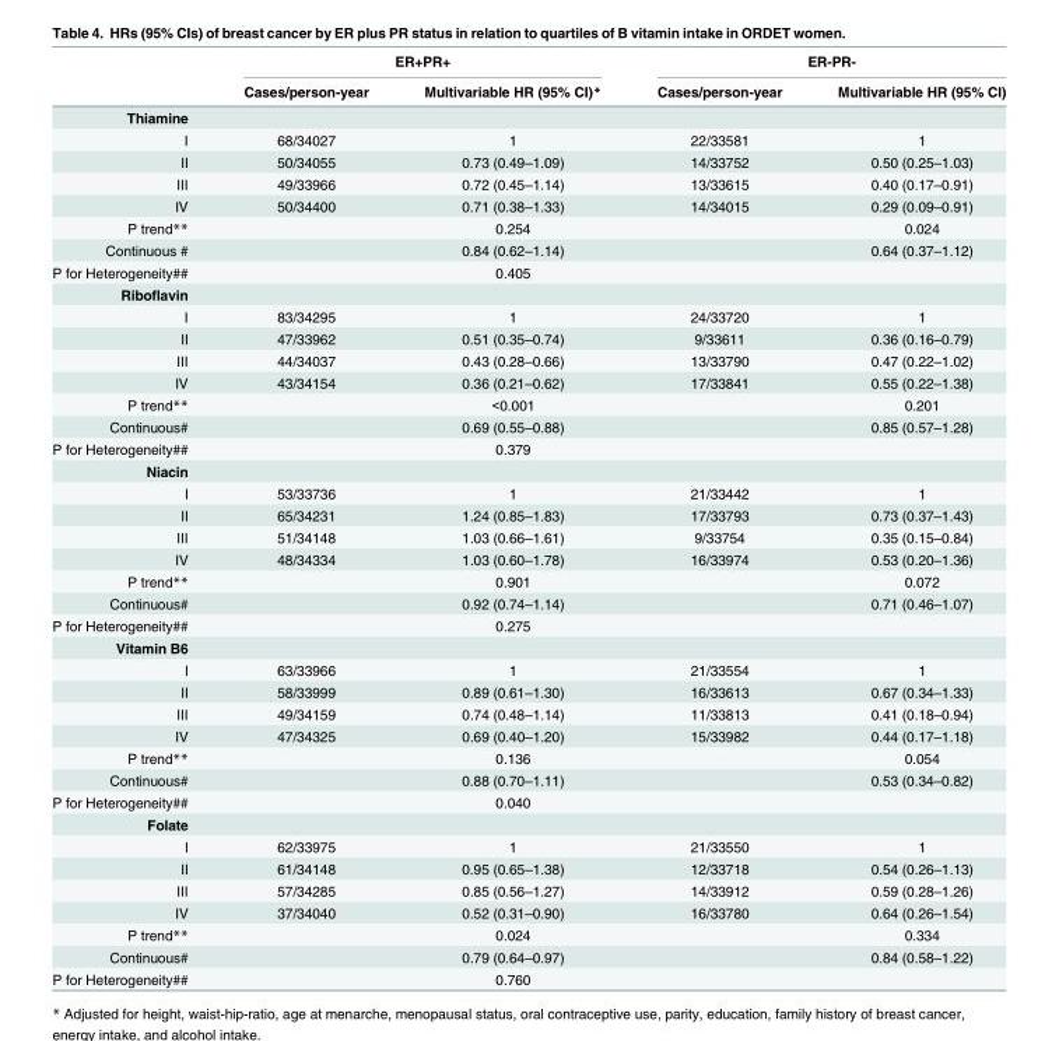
<table><thead><tr><td rowspan="2"></td><td colspan="2">ER+PR+</td><td colspan="2">ER-PR-</td></tr><tr><td>Cases/person-year</td><td>Multivariable HR (95% CI)*</td><td>Cases/person-year</td><td>Multivariable HR (95% CI)</td></tr></thead><tbody><tr><td colspan="5">Thiamine</td></tr><tr><td>I</td><td>68/34027</td><td>1</td><td>22/33581</td><td>1</td></tr><tr><td>II</td><td>50/34055</td><td>0.73 (0.49–1.09)</td><td>14/33752</td><td>0.50 (0.25–1.03)</td></tr><tr><td>III</td><td>49/33966</td><td>0.72 (0.45–1.14)</td><td>13/33615</td><td>0.40 (0.17–0.91)</td></tr><tr><td>IV</td><td>50/34400</td><td>0.71 (0.38–1.33)</td><td>14/34015</td><td>0.29 (0.09–0.91)</td></tr><tr><td>P trend**</td><td></td><td>0.254</td><td></td><td>0.024</td></tr><tr><td>Continuous #</td><td></td><td>0.84 (0.62–1.14)</td><td></td><td>0.64 (0.37–1.12)</td></tr><tr><td>P for Heterogeneity##</td><td></td><td>0.405</td><td></td><td></td></tr><tr><td colspan="5">Riboflavin</td></tr><tr><td>I</td><td>83/34295</td><td>1</td><td>24/33720</td><td>1</td></tr><tr><td>II</td><td>47/33962</td><td>0.51 (0.35–0.74)</td><td>9/33611</td><td>0.36 (0.16–0.79)</td></tr><tr><td>III</td><td>44/34037</td><td>0.43 (0.28–0.66)</td><td>13/33790</td><td>0.47 (0.22–1.02)</td></tr><tr><td>IV</td><td>43/34154</td><td>0.36 (0.21–0.62)</td><td>17/33841</td><td>0.55 (0.22–1.38)</td></tr><tr><td>P trend**</td><td></td><td>&lt;0.001</td><td></td><td>0.201</td></tr><tr><td>Continuous#</td><td></td><td>0.69 (0.55–0.88)</td><td></td><td>0.85 (0.57–1.28)</td></tr><tr><td>P for Heterogeneity##</td><td></td><td>0.379</td><td></td><td></td></tr><tr><td colspan="5">Niacin</td></tr><tr><td>I</td><td>53/33736</td><td>1</td><td>21/33442</td><td>1</td></tr><tr><td>II</td><td>65/34231</td><td>1.24 (0.85–1.83)</td><td>17/33793</td><td>0.73 (0.37–1.43)</td></tr><tr><td>III</td><td>51/34148</td><td>1.03 (0.66–1.61)</td><td>9/33754</td><td>0.35 (0.15–0.84)</td></tr><tr><td>IV</td><td>48/34334</td><td>1.03 (0.60–1.78)</td><td>16/33974</td><td>0.53 (0.20–1.36)</td></tr><tr><td>P trend**</td><td></td><td>0.901</td><td></td><td>0.072</td></tr><tr><td>Continuous#</td><td></td><td>0.92 (0.74–1.14)</td><td></td><td>0.71 (0.46–1.07)</td></tr><tr><td>P for Heterogeneity##</td><td></td><td>0.275</td><td></td><td></td></tr><tr><td colspan="5">Vitamin B6</td></tr><tr><td>I</td><td>63/33966</td><td>1</td><td>21/33554</td><td>1</td></tr><tr><td>II</td><td>58/33999</td><td>0.89 (0.61–1.30)</td><td>16/33613</td><td>0.67 (0.34–1.33)</td></tr><tr><td>III</td><td>49/34159</td><td>0.74 (0.48–1.14)</td><td>11/33813</td><td>0.41 (0.18–0.94)</td></tr><tr><td>IV</td><td>47/34325</td><td>0.69 (0.40–1.20)</td><td>15/33982</td><td>0.44 (0.17–1.18)</td></tr><tr><td>P trend**</td><td></td><td>0.136</td><td></td><td>0.054</td></tr><tr><td>Continuous#</td><td></td><td>0.88 (0.70–1.11)</td><td></td><td>0.53 (0.34–0.82)</td></tr><tr><td>P for Heterogeneity##</td><td></td><td>0.040</td><td></td><td></td></tr><tr><td colspan="5">Folate</td></tr><tr><td>I</td><td>62/33975</td><td>1</td><td>21/33550</td><td>1</td></tr><tr><td>II</td><td>61/34148</td><td>0.95 (0.65–1.38)</td><td>12/33718</td><td>0.54 (0.26–1.13)</td></tr><tr><td>III</td><td>57/34285</td><td>0.85 (0.56–1.27)</td><td>14/33912</td><td>0.59 (0.28–1.26)</td></tr><tr><td>IV</td><td>37/34040</td><td>0.52 (0.31–0.90)</td><td>16/33780</td><td>0.64 (0.26–1.54)</td></tr><tr><td>P trend**</td><td></td><td>0.024</td><td></td><td>0.334</td></tr><tr><td>Continuous#</td><td></td><td>0.79 (0.64–0.97)</td><td></td><td>0.84 (0.58–1.22)</td></tr><tr><td>P for Heterogeneity##</td><td></td><td>0.760</td><td></td><td></td></tr></tbody></table>